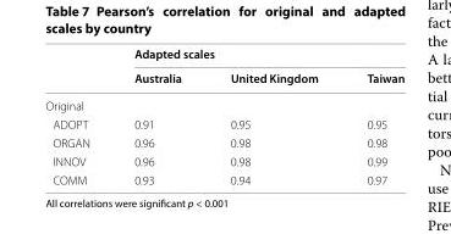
<table><thead><tr><td rowspan="2"></td><td colspan="3">Adapted scales</td></tr><tr><td>Australia</td><td>United Kingdom</td><td>Taiwan</td></tr></thead><tbody><tr><td colspan="4">Original</td></tr><tr><td>ADOPT</td><td>0.91</td><td>0.95</td><td>0.95</td></tr><tr><td>ORGAN</td><td>0.96</td><td>0.98</td><td>0.98</td></tr><tr><td>INNOV</td><td>0.96</td><td>0.98</td><td>0.99</td></tr><tr><td>COMM</td><td>0.93</td><td>0.94</td><td>0.97</td></tr></tbody></table>